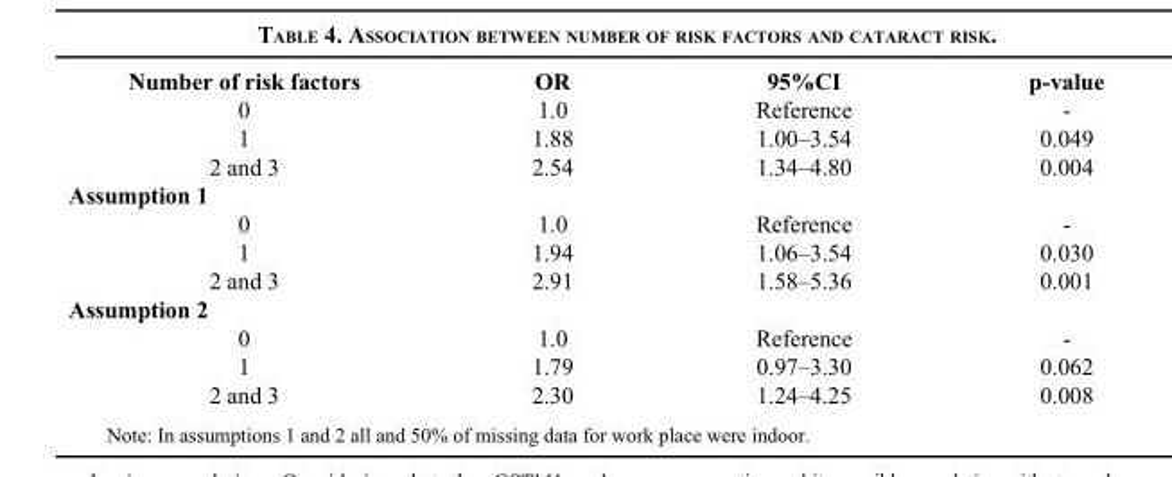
<table><thead><tr><td>Number of risk factors</td><td>OR</td><td>95%CI</td><td>p-value</td></tr></thead><tbody><tr><td>0</td><td>1.0</td><td>Reference</td><td>-</td></tr><tr><td>1</td><td>1.88</td><td>1.00–3.54</td><td>0.049</td></tr><tr><td>2 and 3</td><td>2.54</td><td>1.34–4.80</td><td>0.004</td></tr><tr><td colspan="4">Assumption 1</td></tr><tr><td>0</td><td>1.0</td><td>Reference</td><td>-</td></tr><tr><td>1</td><td>1.94</td><td>1.06–3.54</td><td>0.030</td></tr><tr><td>2 and 3</td><td>2.91</td><td>1.58–5.36</td><td>0.001</td></tr><tr><td colspan="4">Assumption 2</td></tr><tr><td>0</td><td>1.0</td><td>Reference</td><td>-</td></tr><tr><td>1</td><td>1.79</td><td>0.97–3.30</td><td>0.062</td></tr><tr><td>2 and 3</td><td>2.30</td><td>1.24–4.25</td><td>0.008</td></tr></tbody></table>